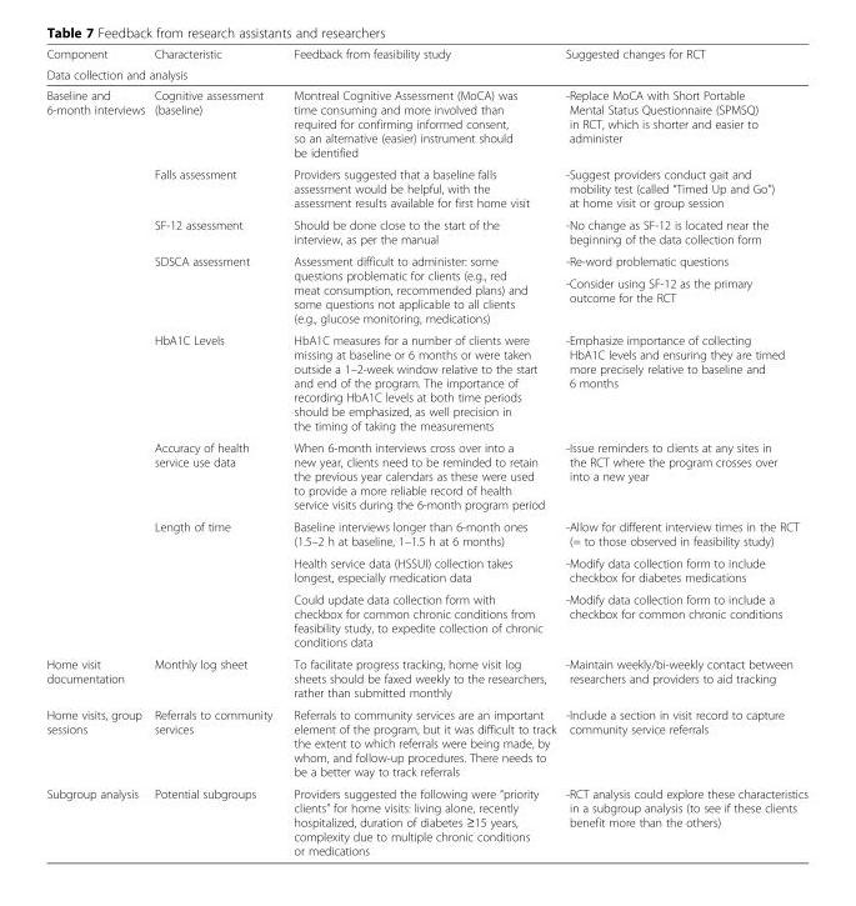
<table><thead><tr><td>Component</td><td>Characteristic</td><td>Feedback from feasibility study</td><td rowspan="2">Suggested changes for RCT</td></tr><tr><td colspan="3">Data collection and analysis</td></tr></thead><tbody><tr><td rowspan="10">Baseline and 6-month interviews</td><td>Cognitive assessment (baseline)</td><td>Montreal Cognitive Assessment (MoCA) was time consuming and more involved than required for confirming informed consent, so an alternative (easier) instrument should be identified</td><td>-Replace MoCA with Short Portable Mental Status Questionnaire (SPMSQ) in RCT, which is shorter and easier to administer</td></tr><tr><td>Falls assessment</td><td>Providers suggested that a baseline falls assessment would be helpful, with the assessment results available for first home visit</td><td>-Suggest providers conduct gait and mobility test (called “Timed Up and Go”) at home visit or group session</td></tr><tr><td>SF-12 assessment</td><td>Should be done close to the start of the interview, as per the manual</td><td>-No change as SF-12 is located near the beginning of the data collection form</td></tr><tr><td rowspan="2">SDSCA assessment</td><td rowspan="2">Assessment difficult to administer: some questions problematic for clients (e.g., red meat consumption, recommended plans) and some questions not applicable to all clients (e.g., glucose monitoring, medications)</td><td>-Re-word problematic questions</td></tr><tr><td>-Consider using SF-12 as the primary outcome for the RCT</td></tr><tr><td>HbA1C Levels</td><td>HbA1C measures for a number of clients were missing at baseline or 6 months or were taken outside a 1–2-week window relative to the start and end of the program. The importance of recording HbA1C levels at both time periods should be emphasized, as well precision in the timing of taking the measurements</td><td>-Emphasize importance of collecting HbA1C levels and ensuring they are timed more precisely relative to baseline and 6 months</td></tr><tr><td>Accuracy of health service use data</td><td>When 6-month interviews cross over into a new year, clients need to be reminded to retain the previous year calendars as these were used to provide a more reliable record of health service visits during the 6-month program period</td><td>-Issue reminders to clients at any sites in the RCT where the program crosses over into a new year</td></tr><tr><td rowspan="3">Length of time</td><td>Baseline interviews longer than 6-month ones (1.5–2 h at baseline, 1–1.5 h at 6 months)</td><td>-Allow for different interview times in the RCT (= to those observed in feasibility study)</td></tr><tr><td>Health service data (HSSUI) collection takes longest, especially medication data</td><td>-Modify data collection form to include checkbox for diabetes medications</td></tr><tr><td>Could update data collection form with checkbox for common chronic conditions from feasibility study, to expedite collection of chronic conditions data</td><td>-Modify data collection form to include a checkbox for common chronic conditions</td></tr><tr><td>Home visit documentation</td><td>Monthly log sheet</td><td>To facilitate progress tracking, home visit log sheets should be faxed weekly to the researchers, rather than submitted monthly</td><td>-Maintain weekly/bi-weekly contact between researchers and providers to aid tracking</td></tr><tr><td>Home visits, group sessions</td><td>Referrals to community services</td><td>Referrals to community services are an important element of the program, but it was difficult to track the extent to which referrals were being made, by whom, and follow-up procedures. There needs to be a better way to track referrals</td><td>-Include a section in visit record to capture community service referrals</td></tr><tr><td>Subgroup analysis</td><td>Potential subgroups</td><td>Providers suggested the following were “priority clients” for home visits: living alone, recently hospitalized, duration of diabetes ≥15 years, complexity due to multiple chronic conditions or medications</td><td>-RCT analysis could explore these characteristics in a subgroup analysis (to see if these clients benefit more than the others)</td></tr></tbody></table>